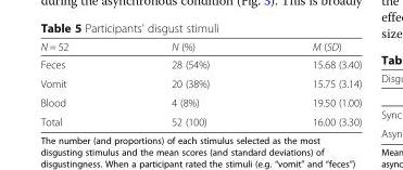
<table><thead><tr><td>N = 52</td><td>N (%)</td><td>M (SD)</td></tr></thead><tbody><tr><td>Feces</td><td>28 (54%)</td><td>15.68 (3.40)</td></tr><tr><td>Vomit</td><td>20 (38%)</td><td>15.75 (3.14)</td></tr><tr><td>Blood</td><td>4 (8%)</td><td>19.50 (1.00)</td></tr><tr><td>Total</td><td>52 (100)</td><td>16.00 (3.30)</td></tr></tbody></table>